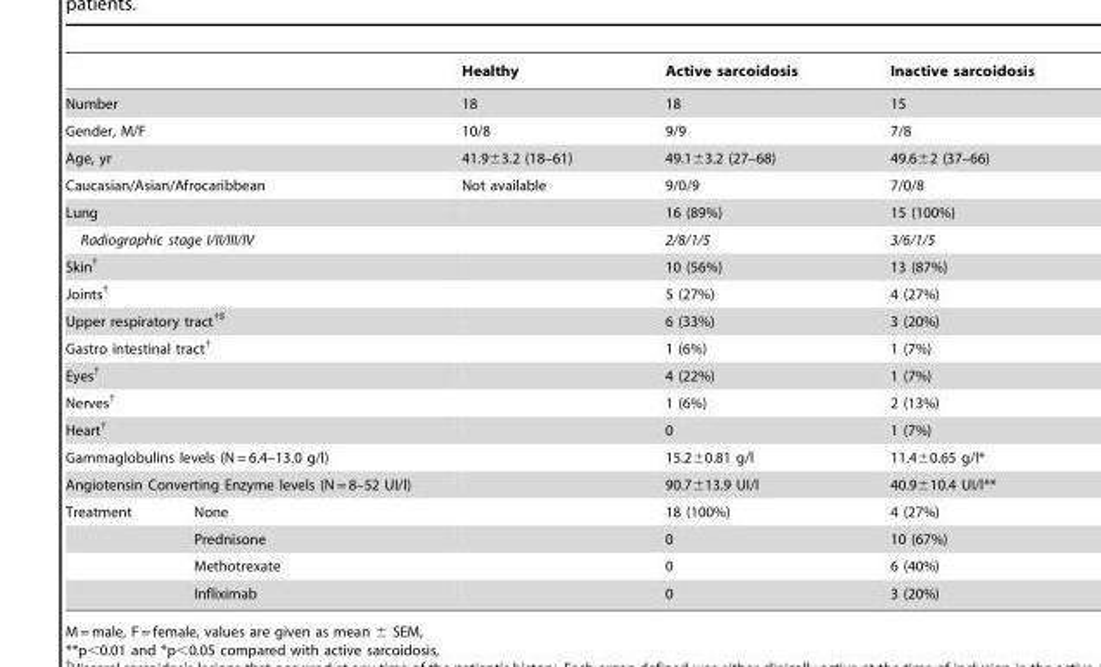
<table><thead><tr><td></td><td></td><td>Healthy</td><td>Active sarcoidosis</td><td>Inactive sarcoidosis</td></tr></thead><tbody><tr><td colspan="2">Number</td><td>18</td><td>18</td><td>15</td></tr><tr><td colspan="2">Gender, M/F</td><td>10/8</td><td>9/9</td><td>7/8</td></tr><tr><td colspan="2">Age, yr</td><td>41.9±3.2 (18–61)</td><td>49.1±3.2 (27–68)</td><td>49.6±2 (37–66)</td></tr><tr><td colspan="2">Caucasian/Asian/Afrocaribbean</td><td>Not available</td><td>9/0/9</td><td>7/0/8</td></tr><tr><td colspan="2">Lung</td><td></td><td>16 (89%)</td><td>15 (100%)</td></tr><tr><td colspan="2">Radiographic stage I/II/III/IV</td><td></td><td>2/8/1/5</td><td>3/6/1/5</td></tr><tr><td colspan="2">Skin†</td><td></td><td>10 (56%)</td><td>13 (87%)</td></tr><tr><td colspan="2">Joints†</td><td></td><td>5 (27%)</td><td>4 (27%)</td></tr><tr><td colspan="2">Upper respiratory tract†<sup>$</sup></td><td></td><td>6 (33%)</td><td>3 (20%)</td></tr><tr><td colspan="2">Gastro intestinal tract†</td><td></td><td>1 (6%)</td><td>1 (7%)</td></tr><tr><td colspan="2">Eyes†</td><td></td><td>4 (22%)</td><td>1 (7%)</td></tr><tr><td colspan="2">Nerves†</td><td></td><td>1 (6%)</td><td>2 (13%)</td></tr><tr><td colspan="2">Heart†</td><td></td><td>0</td><td>1 (7%)</td></tr><tr><td colspan="2">Gammaglobulins levels (N = 6.4–13.0 g/l)</td><td></td><td>15.2±0.81 g/l</td><td>11.4±0.65 g/l*</td></tr><tr><td colspan="2">Angiotensin Converting Enzyme levels (N = 8–52 UI/l)</td><td></td><td>90.7±13.9 UI/l</td><td>40.9±10.4 UI/l**</td></tr><tr><td rowspan="4">Treatment</td><td>None</td><td></td><td>18 (100%)</td><td>4 (27%)</td></tr><tr><td>Prednisone</td><td></td><td>0</td><td>10 (67%)</td></tr><tr><td>Methotrexate</td><td></td><td>0</td><td>6 (40%)</td></tr><tr><td>Infliximab</td><td></td><td>0</td><td>3 (20%)</td></tr></tbody></table>